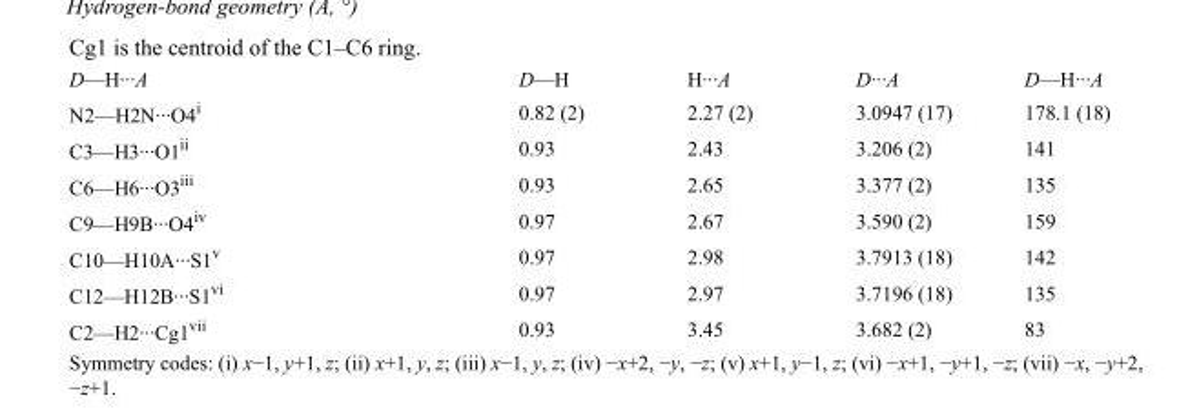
<table><tbody><tr><td>D—H···A</td><td>D—H</td><td>H···A</td><td>D···A</td><td>D—H···A</td></tr><tr><td>N2—H2N···O4<sup>i</sup></td><td>0.82 (2)</td><td>2.27 (2)</td><td>3.0947 (17)</td><td>178.1 (18)</td></tr><tr><td>C3—H3···O1<sup>ii</sup></td><td>0.93</td><td>2.43</td><td>3.206 (2)</td><td>141</td></tr><tr><td>C6—H6···O3<sup>iii</sup></td><td>0.93</td><td>2.65</td><td>3.377 (2)</td><td>135</td></tr><tr><td>C9—H9B···O4<sup>iv</sup></td><td>0.97</td><td>2.67</td><td>3.590 (2)</td><td>159</td></tr><tr><td>C10—H10A···S1<sup>v</sup></td><td>0.97</td><td>2.98</td><td>3.7913 (18)</td><td>142</td></tr><tr><td>C12—H12B···S1<sup>vi</sup></td><td>0.97</td><td>2.97</td><td>3.7196 (18)</td><td>135</td></tr><tr><td>C2—H2···Cg1<sup>vii</sup></td><td>0.93</td><td>3.45</td><td>3.682 (2)</td><td>83</td></tr></tbody></table>